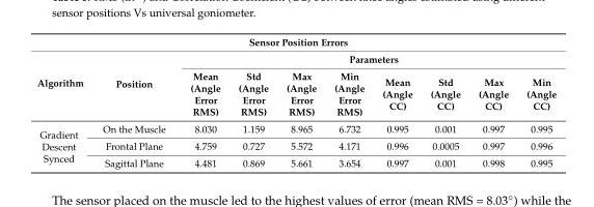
<table><thead><tr><td colspan="10">Sensor Position Errors</td></tr><tr><td rowspan="2">Algorithm</td><td rowspan="2">Position</td><td colspan="8">Parameters</td></tr><tr><td>Mean (Angle Error RMS)</td><td>Std (Angle Error RMS)</td><td>Max (Angle Error RMS)</td><td>Min (Angle Error RMS)</td><td>Mean (Angle CC)</td><td>Std (Angle CC)</td><td>Max (Angle CC)</td><td>Min (Angle CC)</td></tr></thead><tbody><tr><td rowspan="3">Gradient Descent Synced</td><td>On the Muscle</td><td>8.030</td><td>1.159</td><td>8.965</td><td>6.732</td><td>0.995</td><td>0.001</td><td>0.997</td><td>0.995</td></tr><tr><td>Frontal Plane</td><td>4.759</td><td>0.727</td><td>5.572</td><td>4.171</td><td>0.996</td><td>0.0005</td><td>0.997</td><td>0.996</td></tr><tr><td>Sagittal Plane</td><td>4.481</td><td>0.869</td><td>5.661</td><td>3.654</td><td>0.997</td><td>0.001</td><td>0.998</td><td>0.995</td></tr></tbody></table>